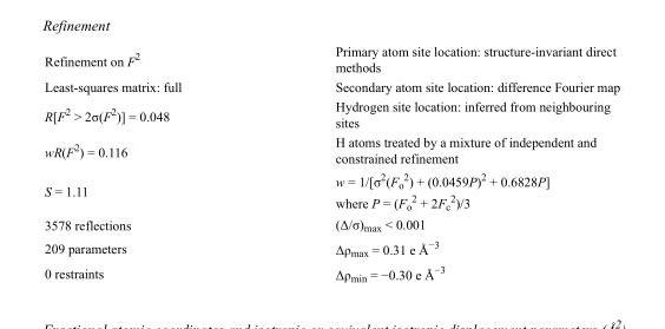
<table><tbody><tr><td>Refinement on F<sup>2</sup></td><td>Primary atom site location: structure-invariant direct methods</td></tr><tr><td>Least-squares matrix: full</td><td>Secondary atom site location: difference Fourier map</td></tr><tr><td>R[F<sup>2</sup> &gt; 2σ(F<sup>2</sup>)] = 0.048</td><td>Hydrogen site location: inferred from neighbouring sites</td></tr><tr><td>wR(F<sup>2</sup>) = 0.116</td><td>H atoms treated by a mixture of independent and constrained refinement</td></tr><tr><td>S = 1.11</td><td>w = 1/[σ<sup>2</sup>(F<sub>o</sub> <sup>2</sup>) + (0.0459P)<sup>2</sup> + 0.6828P] where P = (F<sub>o</sub> <sup>2</sup> + 2F<sub>c</sub> <sup>2</sup>)/3</td></tr><tr><td>3578 reflections</td><td>(Δ/σ)<sub>max</sub> &lt; 0.001</td></tr><tr><td>209 parameters</td><td>Δρ<sub>max</sub> = 0.31 e Å<sup>−3</sup></td></tr><tr><td>0 restraints</td><td>Δρ<sub>min</sub> = −0.30 e Å<sup>−3</sup></td></tr></tbody></table>